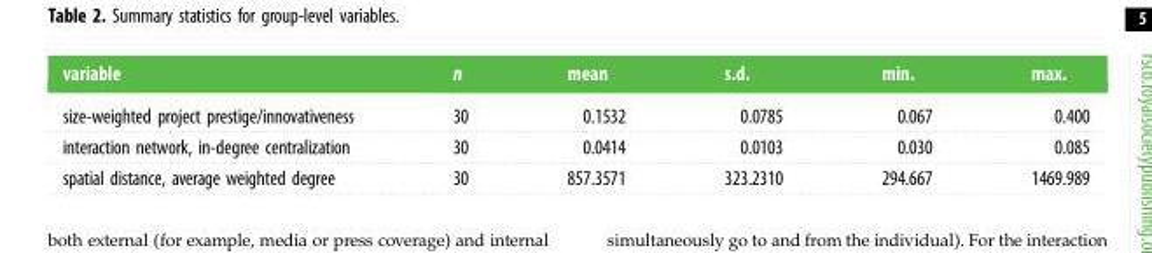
<table><thead><tr><td>variable</td><td>n</td><td>mean</td><td>s.d.</td><td>min.</td><td>max.</td></tr></thead><tbody><tr><td>size-weighted project prestige/innovativeness</td><td>30</td><td>0.1532</td><td>0.0785</td><td>0.067</td><td>0.400</td></tr><tr><td>interaction network, in-degree centralization</td><td>30</td><td>0.0414</td><td>0.0103</td><td>0.030</td><td>0.085</td></tr><tr><td>spatial distance, average weighted degree</td><td>30</td><td>857.3571</td><td>323.2310</td><td>294.667</td><td>1469.989</td></tr></tbody></table>